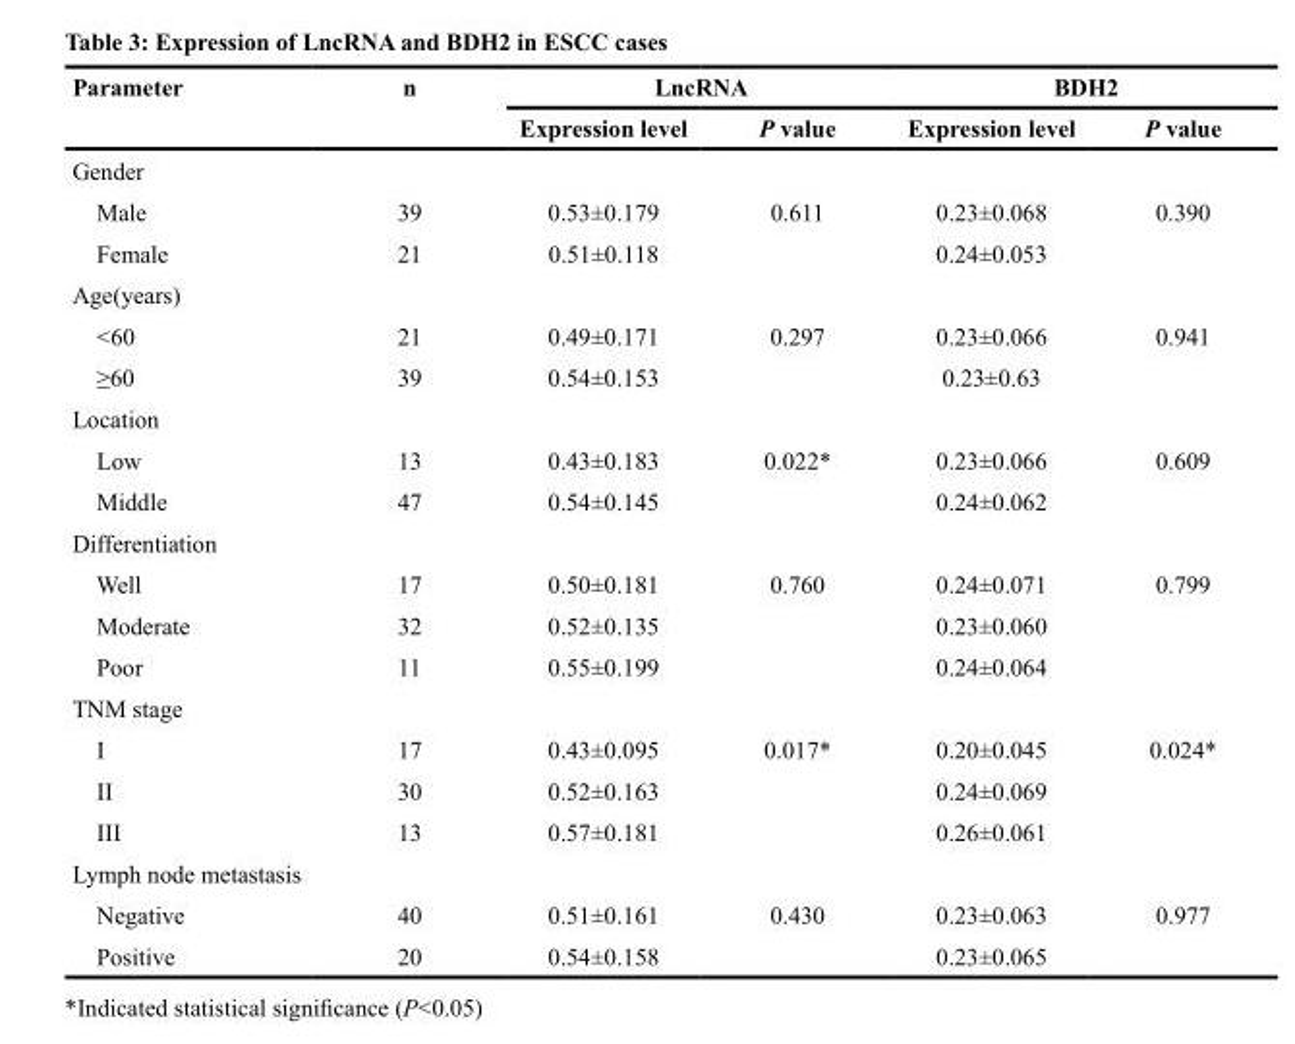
<table><thead><tr><td rowspan="2">Parameter</td><td rowspan="2">n</td><td colspan="2">LncRNA</td><td colspan="2">BDH2</td></tr><tr><td>Expression level</td><td>P value</td><td>Expression level</td><td>P value</td></tr></thead><tbody><tr><td colspan="6">Gender</td></tr><tr><td>Male</td><td>39</td><td>0.53±0.179</td><td>0.611</td><td>0.23±0.068</td><td>0.390</td></tr><tr><td>Female</td><td>21</td><td>0.51±0.118</td><td></td><td>0.24±0.053</td><td></td></tr><tr><td colspan="6">Age(years)</td></tr><tr><td>&lt;60</td><td>21</td><td>0.49±0.171</td><td>0.297</td><td>0.23±0.066</td><td>0.941</td></tr><tr><td>≥60</td><td>39</td><td>0.54±0.153</td><td></td><td>0.23±0.63</td><td></td></tr><tr><td colspan="6">Location</td></tr><tr><td>Low</td><td>13</td><td>0.43±0.183</td><td>0.022*</td><td>0.23±0.066</td><td>0.609</td></tr><tr><td>Middle</td><td>47</td><td>0.54±0.145</td><td></td><td>0.24±0.062</td><td></td></tr><tr><td colspan="6">Differentiation</td></tr><tr><td>Well</td><td>17</td><td>0.50±0.181</td><td>0.760</td><td>0.24±0.071</td><td>0.799</td></tr><tr><td>Moderate</td><td>32</td><td>0.52±0.135</td><td></td><td>0.23±0.060</td><td></td></tr><tr><td>Poor</td><td>11</td><td>0.55±0.199</td><td></td><td>0.24±0.064</td><td></td></tr><tr><td colspan="6">TNM stage</td></tr><tr><td>I</td><td>17</td><td>0.43±0.095</td><td>0.017*</td><td>0.20±0.045</td><td>0.024*</td></tr><tr><td>II</td><td>30</td><td>0.52±0.163</td><td></td><td>0.24±0.069</td><td></td></tr><tr><td>III</td><td>13</td><td>0.57±0.181</td><td></td><td>0.26±0.061</td><td></td></tr><tr><td colspan="6">Lymph node metastasis</td></tr><tr><td>Negative</td><td>40</td><td>0.51±0.161</td><td>0.430</td><td>0.23±0.063</td><td>0.977</td></tr><tr><td>Positive</td><td>20</td><td>0.54±0.158</td><td></td><td>0.23±0.065</td><td></td></tr></tbody></table>